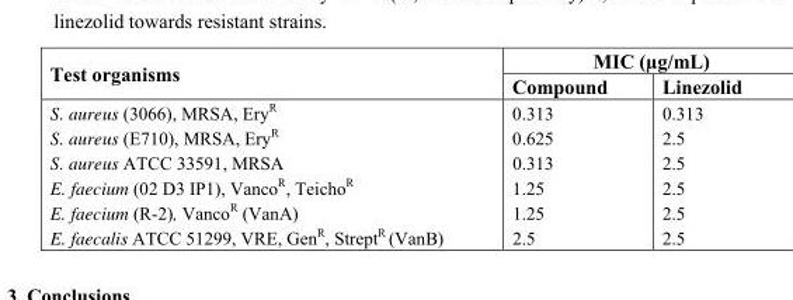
<table><thead><tr><td rowspan="2">Test organisms</td><td colspan="2">MIC (µg/mL)</td></tr><tr><td>Compound</td><td>Linezolid</td></tr></thead><tbody><tr><td>S. aureus (3066), MRSA, Ery<sup>R</sup></td><td>0.313</td><td>0.313</td></tr><tr><td>S. aureus (E710), MRSA, Ery<sup>R</sup></td><td>0.625</td><td>2.5</td></tr><tr><td>S. aureus ATCC 33591, MRSA</td><td>0.313</td><td>2.5</td></tr><tr><td>E. faecium (02 D3 IP1), Vanco<sup>R</sup>, Teicho<sup>R</sup></td><td>1.25</td><td>2.5</td></tr><tr><td>E. faecium (R-2), Vanco<sup>R</sup> (VanA)</td><td>1.25</td><td>2.5</td></tr><tr><td>E. faecalis ATCC 51299, VRE, Gen<sup>R</sup>, Strept<sup>R</sup> (VanB)</td><td>2.5</td><td>2.5</td></tr></tbody></table>